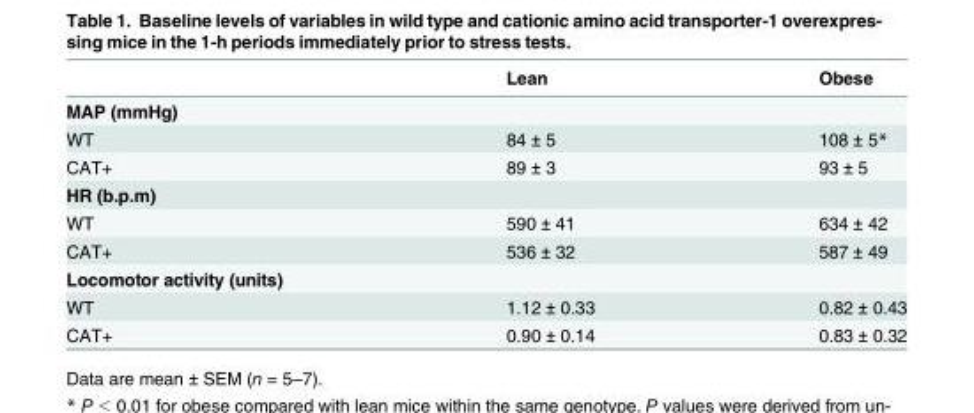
<table><thead><tr><td></td><td>Lean</td><td>Obese</td></tr></thead><tbody><tr><td colspan="3">MAP (mmHg)</td></tr><tr><td>WT</td><td>84 ± 5</td><td>108 ± 5*</td></tr><tr><td>CAT+</td><td>89 ± 3</td><td>93 ± 5</td></tr><tr><td colspan="3">HR (b.p.m)</td></tr><tr><td>WT</td><td>590 ± 41</td><td>634 ± 42</td></tr><tr><td>CAT+</td><td>536 ± 32</td><td>587 ± 49</td></tr><tr><td colspan="3">Locomotor activity (units)</td></tr><tr><td>WT</td><td>1.12 ± 0.33</td><td>0.82 ± 0.43</td></tr><tr><td>CAT+</td><td>0.90 ± 0.14</td><td>0.83 ± 0.32</td></tr></tbody></table>